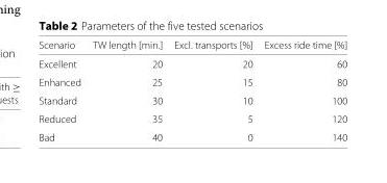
<table><thead><tr><td>Scenario</td><td>TW length [min.]</td><td>Excl. transports [%]</td><td>Excess ride time [%]</td></tr></thead><tbody><tr><td>Excellent</td><td>20</td><td>20</td><td>60</td></tr><tr><td>Enhanced</td><td>25</td><td>15</td><td>80</td></tr><tr><td>Standard</td><td>30</td><td>10</td><td>100</td></tr><tr><td>Reduced</td><td>35</td><td>5</td><td>120</td></tr><tr><td>Bad</td><td>40</td><td>0</td><td>140</td></tr></tbody></table>